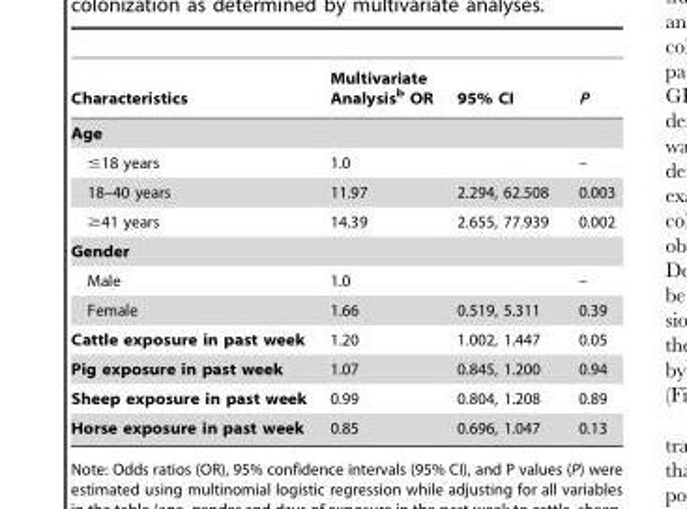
<table><thead><tr><td>Characteristics</td><td>Multivariate Analysis<sup>b</sup> OR</td><td>95% CI</td><td>P</td></tr></thead><tbody><tr><td colspan="4">Age</td></tr><tr><td>≤18 years</td><td>1.0</td><td></td><td>–</td></tr><tr><td>18–40 years</td><td>11.97</td><td>2.294, 62.508</td><td>0.003</td></tr><tr><td>≥41 years</td><td>14.39</td><td>2.655, 77.939</td><td>0.002</td></tr><tr><td colspan="4">Gender</td></tr><tr><td>Male</td><td>1.0</td><td></td><td>–</td></tr><tr><td>Female</td><td>1.66</td><td>0.519, 5.311</td><td>0.39</td></tr><tr><td>Cattle exposure in past week</td><td>1.20</td><td>1.002, 1.447</td><td>0.05</td></tr><tr><td>Pig exposure in past week</td><td>1.07</td><td>0.845, 1.200</td><td>0.94</td></tr><tr><td>Sheep exposure in past week</td><td>0.99</td><td>0.804, 1.208</td><td>0.89</td></tr><tr><td>Horse exposure in past week</td><td>0.85</td><td>0.696, 1.047</td><td>0.13</td></tr></tbody></table>